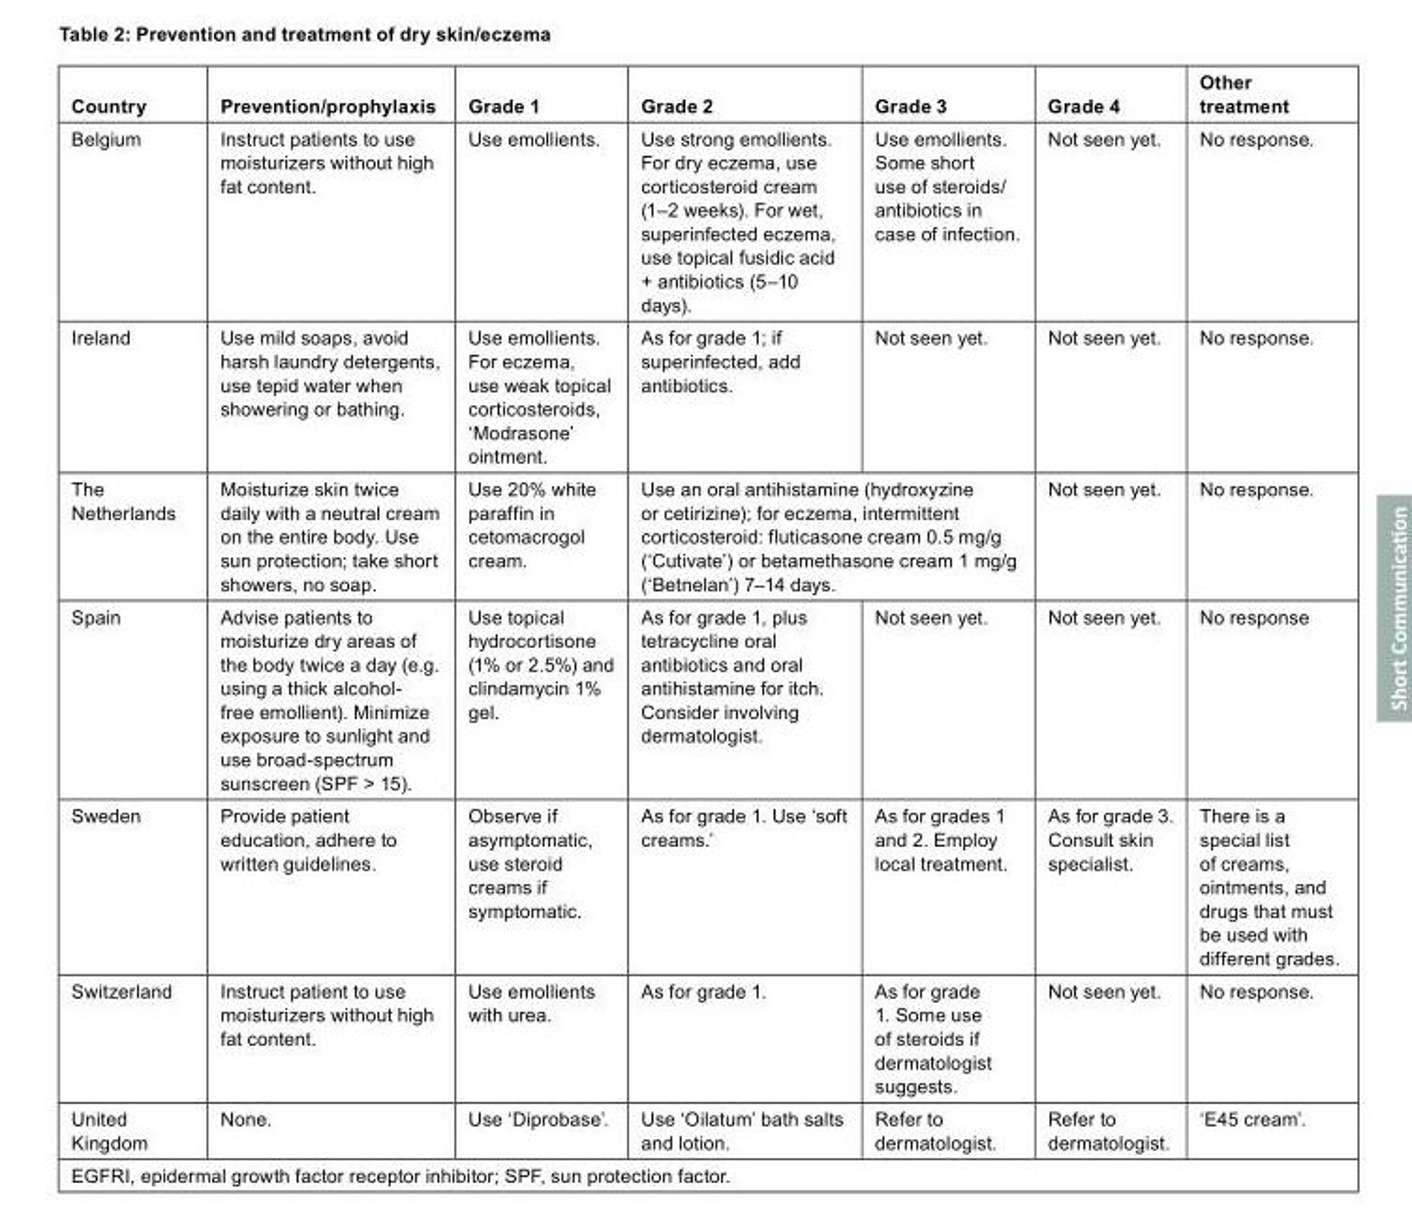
<table><thead><tr><td>Country</td><td>Prevention/prophylaxis</td><td>Grade 1</td><td>Grade 2</td><td>Grade 3</td><td>Grade 4</td><td>Other treatment</td></tr></thead><tbody><tr><td>Belgium</td><td>Instruct patients to use moisturizers without high fat content.</td><td>Use emollients.</td><td>Use strong emollients. For dry eczema, use corticosteroid cream (1–2 weeks). For wet, superinfected eczema, use topical fusidic acid + antibiotics (5–10 days).</td><td>Use emollients. Some short use of steroids/ antibiotics in case of infection.</td><td>Not seen yet.</td><td>No response.</td></tr><tr><td>Ireland</td><td>Use mild soaps, avoid harsh laundry detergents, use tepid water when showering or bathing.</td><td>Use emollients. For eczema, use weak topical corticosteroids, ‘Modrasone’ ointment.</td><td>As for grade 1; if superinfected, add antibiotics.</td><td>Not seen yet.</td><td>Not seen yet.</td><td>No response.</td></tr><tr><td>The Netherlands</td><td>Moisturize skin twice daily with a neutral cream on the entire body. Use sun protection; take short showers, no soap.</td><td>Use 20% white paraffin in cetomacrogol cream.</td><td colspan="2">Use an oral antihistamine (hydroxyzine or cetirizine); for eczema, intermittent corticosteroid: fluticasone cream 0.5 mg/g (‘Cutivate’) or betamethasone cream 1 mg/g (‘Betnelan’) 7–14 days.</td><td>Not seen yet.</td><td>No response.</td></tr><tr><td>Spain</td><td>Advise patients to moisturize dry areas of the body twice a day (e.g. using a thick alcohol- free emollient). Minimize exposure to sunlight and use broad-spectrum sunscreen (SPF &gt; 15).</td><td>Use topical hydrocortisone (1% or 2.5%) and clindamycin 1% gel.</td><td>As for grade 1, plus tetracycline oral antibiotics and oral antihistamine for itch. Consider involving dermatologist.</td><td>Not seen yet.</td><td>Not seen yet.</td><td>No response</td></tr><tr><td>Sweden</td><td>Provide patient education, adhere to written guidelines.</td><td>Observe if asymptomatic, use steroid creams if symptomatic.</td><td>As for grade 1. Use ‘soft creams.’</td><td>As for grades 1 and 2. Employ local treatment.</td><td>As for grade 3. Consult skin specialist.</td><td>There is a special list of creams, ointments, and drugs that must be used with different grades.</td></tr><tr><td>Switzerland</td><td>Instruct patient to use moisturizers without high fat content.</td><td>Use emollients with urea.</td><td>As for grade 1.</td><td>As for grade 1. Some use of steroids if dermatologist suggests.</td><td>Not seen yet.</td><td>No response.</td></tr><tr><td>United Kingdom</td><td>None.</td><td>Use ‘Diprobase’.</td><td>Use ‘Oilatum’ bath salts and lotion.</td><td>Refer to dermatologist.</td><td>Refer to dermatologist.</td><td>‘E45 cream’.</td></tr></tbody></table>